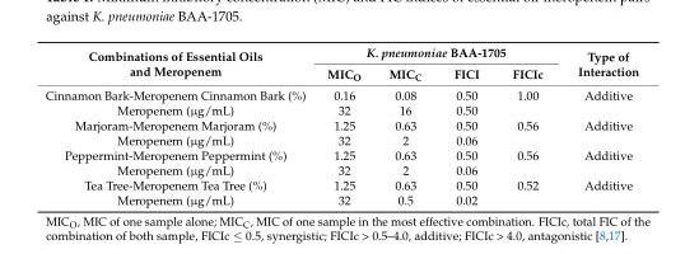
<table><thead><tr><td rowspan="2">Combinations of Essential Oils and Meropenem</td><td colspan="4">K. pneumoniae BAA-1705</td><td rowspan="2">Type of Interaction</td></tr><tr><td>MIC<sub>O</sub></td><td>MIC<sub>C</sub></td><td>FICI</td><td>FICIc</td></tr></thead><tbody><tr><td>Cinnamon Bark-Meropenem Cinnamon Bark (%)</td><td>0.16</td><td>0.08</td><td>0.50</td><td>1.00</td><td>Additive</td></tr><tr><td>Meropenem (µg/mL)</td><td>32</td><td>16</td><td>0.50</td><td></td><td></td></tr><tr><td>Marjoram-Meropenem Marjoram (%)</td><td>1.25</td><td>0.63</td><td>0.50</td><td>0.56</td><td>Additive</td></tr><tr><td>Meropenem (µg/mL)</td><td>32</td><td>2</td><td>0.06</td><td></td><td></td></tr><tr><td>Peppermint-Meropenem Peppermint (%)</td><td>1.25</td><td>0.63</td><td>0.50</td><td>0.56</td><td>Additive</td></tr><tr><td>Meropenem (µg/mL)</td><td>32</td><td>2</td><td>0.06</td><td></td><td></td></tr><tr><td>Tea Tree-Meropenem Tea Tree (%)</td><td>1.25</td><td>0.63</td><td>0.50</td><td>0.52</td><td>Additive</td></tr><tr><td>Meropenem (µg/mL)</td><td>32</td><td>0.5</td><td>0.02</td><td></td><td></td></tr></tbody></table>